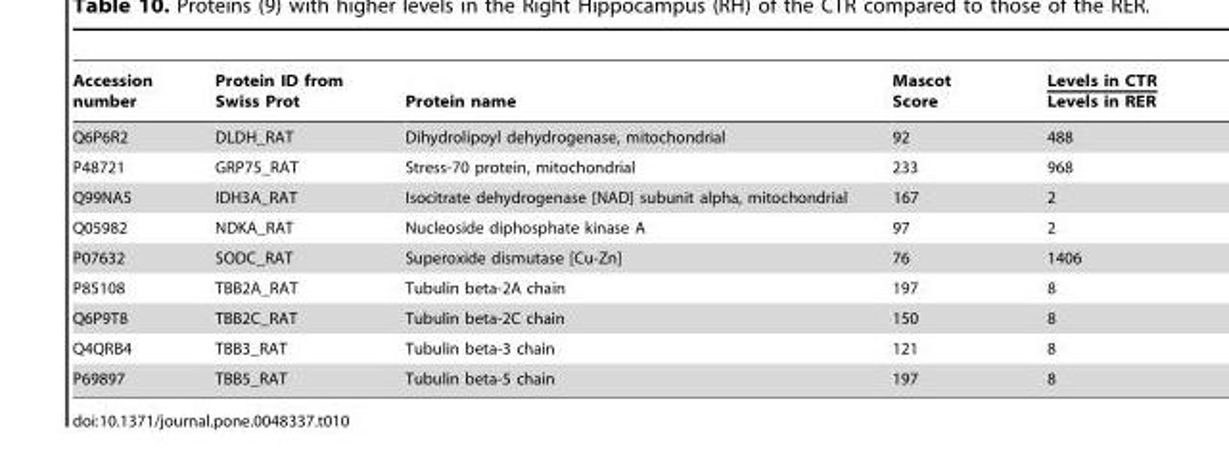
<table><thead><tr><td>Accession number</td><td>Protein ID from Swiss Prot</td><td>Protein name</td><td>Mascot Score</td><td>Levels in CTR Levels in RER</td></tr></thead><tbody><tr><td>Q6P6R2</td><td>DLDH_RAT</td><td>Dihydrolipoyl dehydrogenase, mitochondrial</td><td>92</td><td>488</td></tr><tr><td>P48721</td><td>GRP75_RAT</td><td>Stress-70 protein, mitochondrial</td><td>233</td><td>968</td></tr><tr><td>Q99NA5</td><td>IDH3A_RAT</td><td>Isocitrate dehydrogenase [NAD] subunit alpha, mitochondrial</td><td>167</td><td>2</td></tr><tr><td>Q05982</td><td>NDKA_RAT</td><td>Nucleoside diphosphate kinase A</td><td>97</td><td>2</td></tr><tr><td>P07632</td><td>SODC_RAT</td><td>Superoxide dismutase [Cu-Zn]</td><td>76</td><td>1406</td></tr><tr><td>P85108</td><td>TBB2A_RAT</td><td>Tubulin beta-2A chain</td><td>197</td><td>8</td></tr><tr><td>Q6P9T8</td><td>TBB2C_RAT</td><td>Tubulin beta-2C chain</td><td>150</td><td>8</td></tr><tr><td>Q4QRB4</td><td>TBB3_RAT</td><td>Tubulin beta-3 chain</td><td>121</td><td>8</td></tr><tr><td>P69897</td><td>TBB5_RAT</td><td>Tubulin beta-5 chain</td><td>197</td><td>8</td></tr></tbody></table>